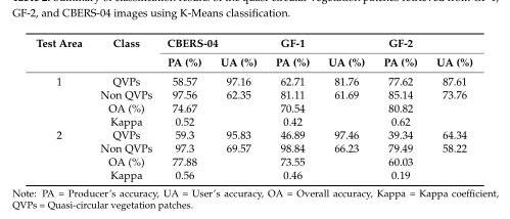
<table><thead><tr><td rowspan="2">Test Area</td><td rowspan="2">Class</td><td rowspan="2">CBERS-04 PA (%)</td><td rowspan="2">UA (%)</td><td rowspan="2">GF-1 PA (%)</td><td rowspan="2">UA (%)</td><td rowspan="2">GF-2 PA (%)</td><td rowspan="2">UA (%)</td></tr><tr></tr></thead><tbody><tr><td rowspan="4">1</td><td>QVPs</td><td>58.57</td><td>97.16</td><td>62.71</td><td>81.76</td><td>77.62</td><td>87.61</td></tr><tr><td>Non QVPs</td><td>97.56</td><td>62.35</td><td>81.11</td><td>61.69</td><td>85.14</td><td>73.76</td></tr><tr><td>OA (%)</td><td>74.67</td><td></td><td>70.54</td><td></td><td>80.82</td><td></td></tr><tr><td>Kappa</td><td>0.52</td><td></td><td>0.42</td><td></td><td>0.62</td><td></td></tr><tr><td rowspan="4">2</td><td>QVPs</td><td>59.3</td><td>95.83</td><td>46.89</td><td>97.46</td><td>39.34</td><td>64.34</td></tr><tr><td>Non QVPs</td><td>97.3</td><td>69.57</td><td>98.84</td><td>66.23</td><td>79.49</td><td>58.22</td></tr><tr><td>OA (%)</td><td>77.88</td><td></td><td>73.55</td><td></td><td>60.03</td><td></td></tr><tr><td>Kappa</td><td>0.56</td><td></td><td>0.46</td><td></td><td>0.19</td><td></td></tr></tbody></table>